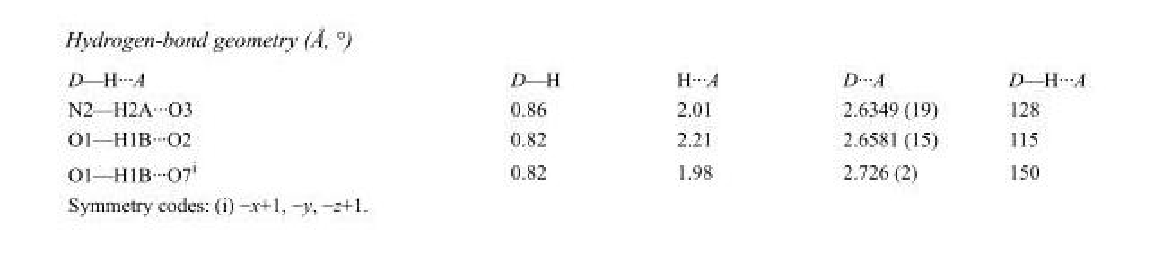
<table><tbody><tr><td>D—H···A</td><td>D—H</td><td>H···A</td><td>D···A</td><td>D—H···A</td></tr><tr><td>N2—H2A···O3</td><td>0.86</td><td>2.01</td><td>2.6349 (19)</td><td>128</td></tr><tr><td>O1—H1B···O2</td><td>0.82</td><td>2.21</td><td>2.6581 (15)</td><td>115</td></tr><tr><td>O1—H1B···O7<sup>i</sup></td><td>0.82</td><td>1.98</td><td>2.726 (2)</td><td>150</td></tr></tbody></table>